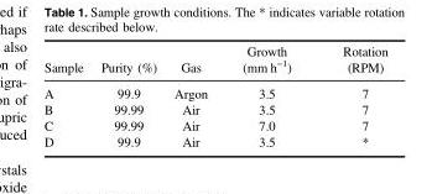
<table><thead><tr><td>Sample</td><td>Purity (%)</td><td>Gas</td><td>Growth (mm h<sup>−1</sup>)</td><td>Rotation (RPM)</td></tr></thead><tbody><tr><td>A</td><td>99.9</td><td>Argon</td><td>3.5</td><td>7</td></tr><tr><td>B</td><td>99.99</td><td>Air</td><td>3.5</td><td>7</td></tr><tr><td>C</td><td>99.99</td><td>Air</td><td>7.0</td><td>7</td></tr><tr><td>D</td><td>99.9</td><td>Air</td><td>3.5</td><td>*</td></tr></tbody></table>